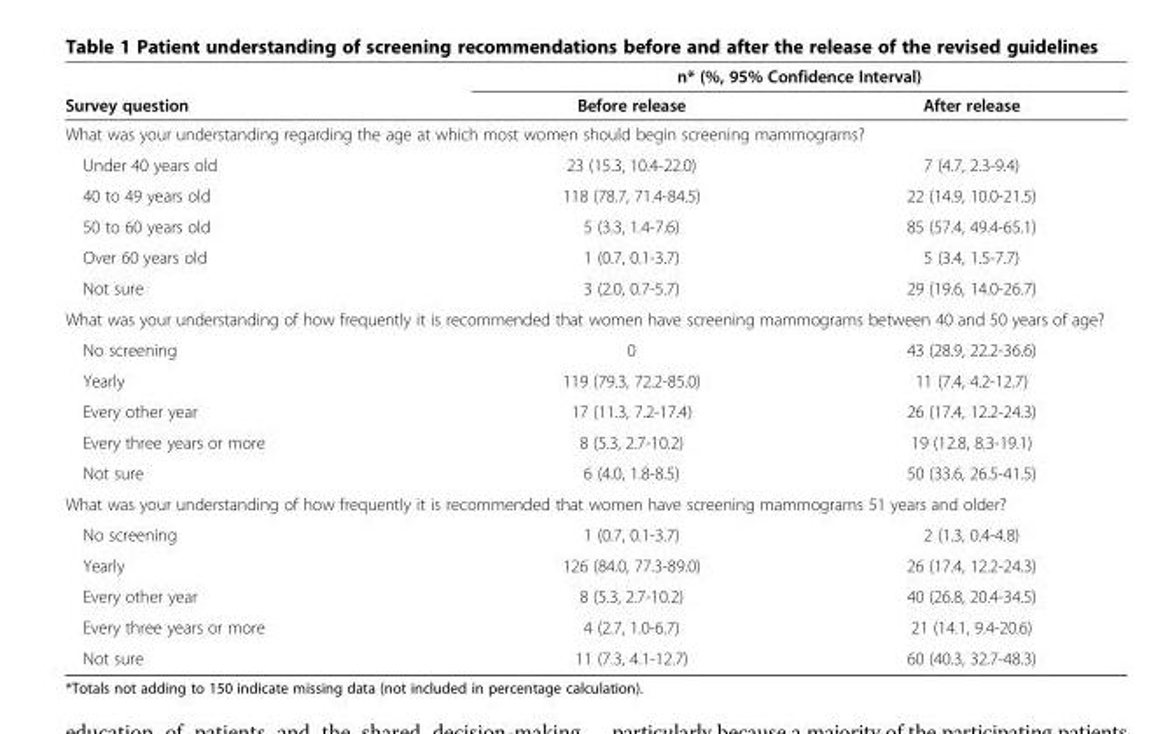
<table><thead><tr><td rowspan="2">Survey question</td><td colspan="2">n* (%, 95% Confidence Interval)</td></tr><tr><td>Before release</td><td>After release</td></tr></thead><tbody><tr><td colspan="3">What was your understanding regarding the age at which most women should begin screening mammograms?</td></tr><tr><td>Under 40 years old</td><td>23 (15.3, 10.4-22.0)</td><td>7 (4.7, 2.3-9.4)</td></tr><tr><td>40 to 49 years old</td><td>118 (78.7, 71.4-84.5)</td><td>22 (14.9, 10.0-21.5)</td></tr><tr><td>50 to 60 years old</td><td>5 (3.3, 1.4-7.6)</td><td>85 (57.4, 49.4-65.1)</td></tr><tr><td>Over 60 years old</td><td>1 (0.7, 0.1-3.7)</td><td>5 (3.4, 1.5-7.7)</td></tr><tr><td>Not sure</td><td>3 (2.0, 0.7-5.7)</td><td>29 (19.6, 14.0-26.7)</td></tr><tr><td colspan="3">What was your understanding of how frequently it is recommended that women have screening mammograms between 40 and 50 years of age?</td></tr><tr><td>No screening</td><td>0</td><td>43 (28.9, 22.2-36.6)</td></tr><tr><td>Yearly</td><td>119 (79.3, 72.2-85.0)</td><td>11 (7.4, 4.2-12.7)</td></tr><tr><td>Every other year</td><td>17 (11.3, 7.2-17.4)</td><td>26 (17.4, 12.2-24.3)</td></tr><tr><td>Every three years or more</td><td>8 (5.3, 2.7-10.2)</td><td>19 (12.8, 8.3-19.1)</td></tr><tr><td>Not sure</td><td>6 (4.0, 1.8-8.5)</td><td>50 (33.6, 26.5-41.5)</td></tr><tr><td colspan="3">What was your understanding of how frequently it is recommended that women have screening mammograms 51 years and older?</td></tr><tr><td>No screening</td><td>1 (0.7, 0.1-3.7)</td><td>2 (1.3, 0.4-4.8)</td></tr><tr><td>Yearly</td><td>126 (84.0, 77.3-89.0)</td><td>26 (17.4, 12.2-24.3)</td></tr><tr><td>Every other year</td><td>8 (5.3, 2.7-10.2)</td><td>40 (26.8, 20.4-34.5)</td></tr><tr><td>Every three years or more</td><td>4 (2.7, 1.0-6.7)</td><td>21 (14.1, 9.4-20.6)</td></tr><tr><td>Not sure</td><td>11 (7.3, 4.1-12.7)</td><td>60 (40.3, 32.7-48.3)</td></tr></tbody></table>